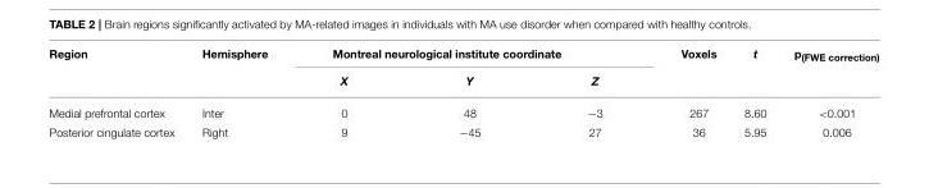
<table><thead><tr><td rowspan="2">Region</td><td rowspan="2">Hemisphere</td><td colspan="3">Montreal neurological institute coordinate</td><td rowspan="2">Voxels</td><td rowspan="2">t</td><td rowspan="2">p<sub>(FWE correction)</sub></td></tr><tr><td>X</td><td>Y</td><td>Z</td></tr></thead><tbody><tr><td>Medial prefrontal cortex</td><td>Inter</td><td>0</td><td>48</td><td>−3</td><td>267</td><td>8.60</td><td>&lt;0.001</td></tr><tr><td>Posterior cingulate cortex</td><td>Right</td><td>9</td><td>−45</td><td>27</td><td>36</td><td>5.95</td><td>0.006</td></tr></tbody></table>